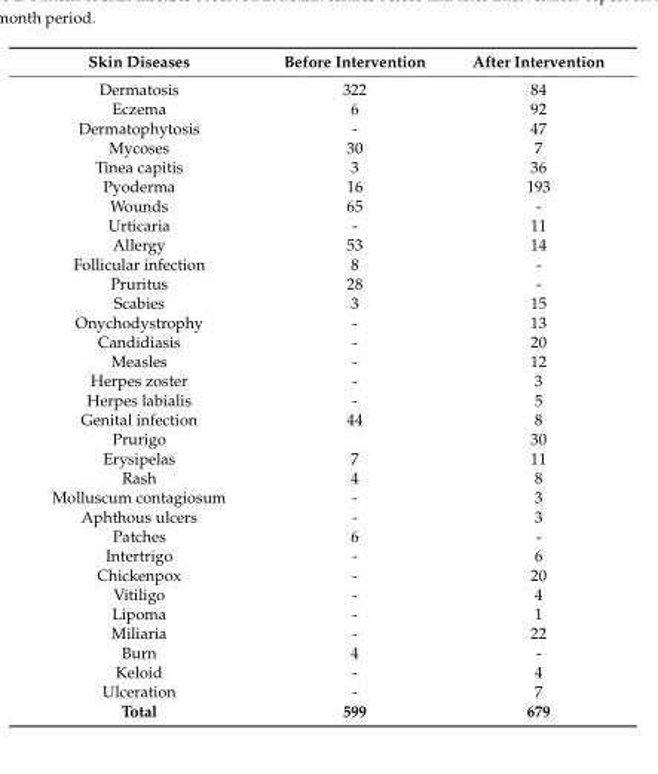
<table><thead><tr><td>Skin Diseases</td><td>Before Intervention</td><td>After Intervention</td></tr></thead><tbody><tr><td>Dermatosis</td><td>322</td><td>84</td></tr><tr><td>Eczema</td><td>6</td><td>92</td></tr><tr><td>Dermatophytosis</td><td>-</td><td>47</td></tr><tr><td>Mycoses</td><td>30</td><td>7</td></tr><tr><td>Tinea capitis</td><td>3</td><td>36</td></tr><tr><td>Pyoderma</td><td>16</td><td>193</td></tr><tr><td>Wounds</td><td>65</td><td>-</td></tr><tr><td>Urticaria</td><td>-</td><td>11</td></tr><tr><td>Allergy</td><td>53</td><td>14</td></tr><tr><td>Follicular infection</td><td>8</td><td>-</td></tr><tr><td>Pruritus</td><td>28</td><td>-</td></tr><tr><td>Scabies</td><td>3</td><td>15</td></tr><tr><td>Onychodystrophy</td><td>-</td><td>13</td></tr><tr><td>Candidiasis</td><td>-</td><td>20</td></tr><tr><td>Measles</td><td>-</td><td>12</td></tr><tr><td>Herpes zoster</td><td>-</td><td>3</td></tr><tr><td>Herpes labialis</td><td>-</td><td>5</td></tr><tr><td>Genital infection</td><td>44</td><td>8</td></tr><tr><td>Prurigo</td><td></td><td>30</td></tr><tr><td>Erysipelas</td><td>7</td><td>11</td></tr><tr><td>Rash</td><td>4</td><td>8</td></tr><tr><td>Molluscum contagiosum</td><td>-</td><td>3</td></tr><tr><td>Aphthous ulcers</td><td>-</td><td>3</td></tr><tr><td>Patches</td><td>6</td><td>-</td></tr><tr><td>Intertrigo</td><td>-</td><td>6</td></tr><tr><td>Chickenpox</td><td>-</td><td>20</td></tr><tr><td>Vitiligo</td><td>-</td><td>4</td></tr><tr><td>Lipoma</td><td>-</td><td>1</td></tr><tr><td>Miliaria</td><td>-</td><td>22</td></tr><tr><td>Burn</td><td>4</td><td>-</td></tr><tr><td>Keloid</td><td>-</td><td>4</td></tr><tr><td>Ulceration</td><td>-</td><td>7</td></tr><tr><td>Total</td><td>599</td><td>679</td></tr></tbody></table>